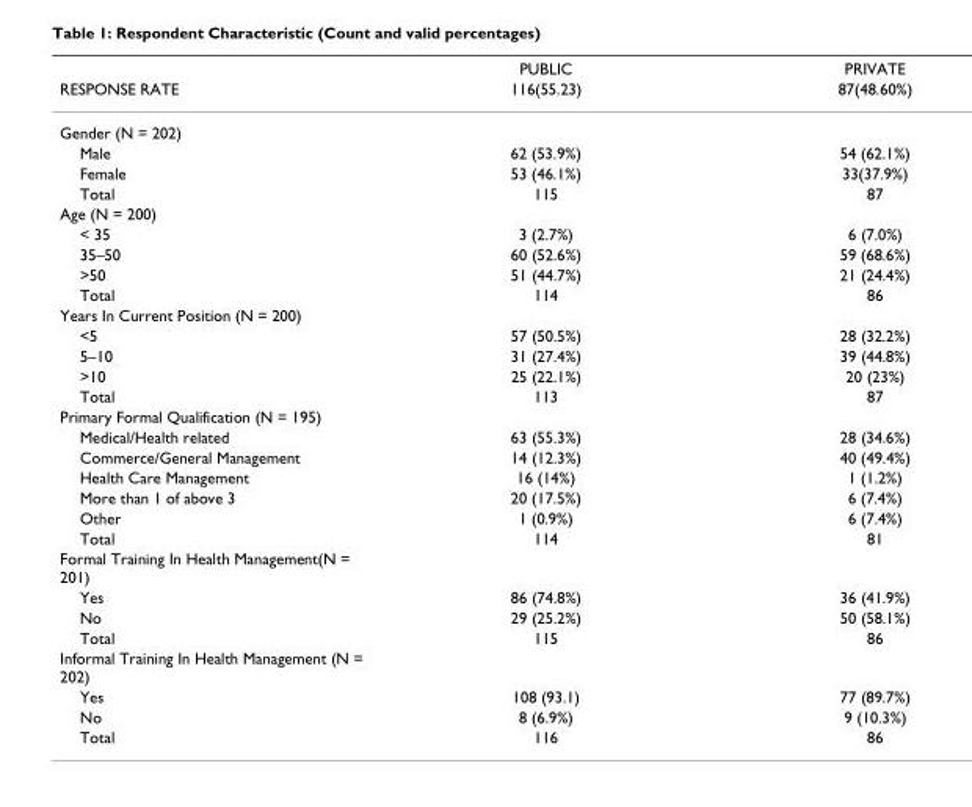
<table><thead><tr><td rowspan="2">RESPONSE RATE</td><td rowspan="2">PUBLIC 116(55.23)</td><td rowspan="2">PRIVATE 87(48.60%)</td></tr><tr></tr></thead><tbody><tr><td colspan="3">Gender (N = 202)</td></tr><tr><td>Male</td><td>62 (53.9%)</td><td>54 (62.1%)</td></tr><tr><td>Female</td><td>53 (46.1%)</td><td>33(37.9%)</td></tr><tr><td>Total</td><td>115</td><td>87</td></tr><tr><td colspan="3">Age (N = 200)</td></tr><tr><td>&lt; 35</td><td>3 (2.7%)</td><td>6 (7.0%)</td></tr><tr><td>35–50</td><td>60 (52.6%)</td><td>59 (68.6%)</td></tr><tr><td>&gt;50</td><td>51 (44.7%)</td><td>21 (24.4%)</td></tr><tr><td>Total</td><td>114</td><td>86</td></tr><tr><td colspan="3">Years In Current Position (N = 200)</td></tr><tr><td>&lt;5</td><td>57 (50.5%)</td><td>28 (32.2%)</td></tr><tr><td>5–10</td><td>31 (27.4%)</td><td>39 (44.8%)</td></tr><tr><td>&gt;10</td><td>25 (22.1%)</td><td>20 (23%)</td></tr><tr><td>Total</td><td>113</td><td>87</td></tr><tr><td colspan="3">Primary Formal Qualification (N = 195)</td></tr><tr><td>Medical/Health related</td><td>63 (55.3%)</td><td>28 (34.6%)</td></tr><tr><td>Commerce/General Management</td><td>14 (12.3%)</td><td>40 (49.4%)</td></tr><tr><td>Health Care Management</td><td>16 (14%)</td><td>1 (1.2%)</td></tr><tr><td>More than 1 of above 3</td><td>20 (17.5%)</td><td>6 (7.4%)</td></tr><tr><td>Other</td><td>1 (0.9%)</td><td>6 (7.4%)</td></tr><tr><td>Total</td><td>114</td><td>81</td></tr><tr><td colspan="3">Formal Training In Health Management(N = 201)</td></tr><tr><td>Yes</td><td>86 (74.8%)</td><td>36 (41.9%)</td></tr><tr><td>No</td><td>29 (25.2%)</td><td>50 (58.1%)</td></tr><tr><td>Total</td><td>115</td><td>86</td></tr><tr><td colspan="3">Informal Training In Health Management (N = 202)</td></tr><tr><td>Yes</td><td>108 (93.1)</td><td>77 (89.7%)</td></tr><tr><td>No</td><td>8 (6.9%)</td><td>9 (10.3%)</td></tr><tr><td>Total</td><td>116</td><td>86</td></tr></tbody></table>